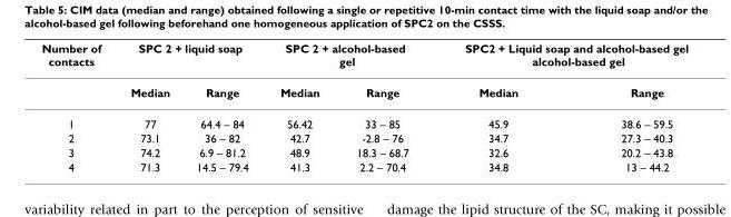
<table><thead><tr><td rowspan="2">Number of contacts</td><td colspan="2">SPC 2 + liquid soap</td><td colspan="2">SPC 2 + alcohol-based gel</td><td colspan="2">SPC2 + Liquid soap and alcohol-based gel alcohol-based gel</td></tr><tr><td>Median</td><td>Range</td><td>Median</td><td>Range</td><td>Median</td><td>Range</td></tr></thead><tbody><tr><td>1</td><td>77</td><td>64.4 – 84</td><td>56.42</td><td>33 – 85</td><td>45.9</td><td>38.6 – 59.5</td></tr><tr><td>2</td><td>73.1</td><td>36 – 82</td><td>42.7</td><td>-2.8 – 76</td><td>34.7</td><td>27.3 – 40.3</td></tr><tr><td>3</td><td>74.2</td><td>6.9 – 81.2</td><td>48.9</td><td>18.3 – 68.7</td><td>32.6</td><td>20.2 – 43.8</td></tr><tr><td>4</td><td>71.3</td><td>14.5 – 79.4</td><td>41.3</td><td>2.2 – 70.4</td><td>34.8</td><td>13 – 44.2</td></tr></tbody></table>